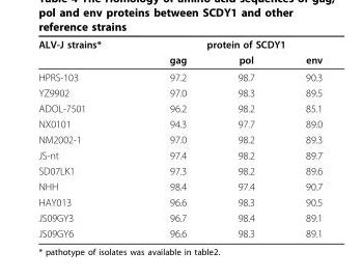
<table><thead><tr><td rowspan="2">ALV-J strains*</td><td colspan="3">protein of SCDY1</td></tr><tr><td>gag</td><td>pol</td><td>env</td></tr></thead><tbody><tr><td>HPRS-103</td><td>97.2</td><td>98.7</td><td>90.3</td></tr><tr><td>YZ9902</td><td>97.0</td><td>98.3</td><td>89.5</td></tr><tr><td>ADOL-7501</td><td>96.2</td><td>98.2</td><td>85.1</td></tr><tr><td>NX0101</td><td>94.3</td><td>97.7</td><td>89.0</td></tr><tr><td>NM2002-1</td><td>97.0</td><td>98.2</td><td>89.3</td></tr><tr><td>JS-nt</td><td>97.4</td><td>98.2</td><td>89.7</td></tr><tr><td>SD07LK1</td><td>97.3</td><td>98.2</td><td>89.6</td></tr><tr><td>NHH</td><td>98.4</td><td>97.4</td><td>90.7</td></tr><tr><td>HAY013</td><td>96.6</td><td>98.3</td><td>90.5</td></tr><tr><td>JS09GY3</td><td>96.7</td><td>98.4</td><td>89.1</td></tr><tr><td>JS09GY6</td><td>96.6</td><td>98.3</td><td>89.1</td></tr></tbody></table>